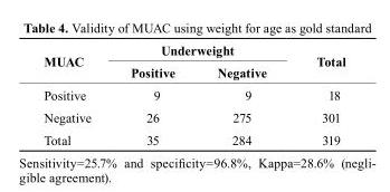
<table><thead><tr><td rowspan="2">MUAc</td><td colspan="2">Underweight</td><td rowspan="2">total</td></tr><tr><td>Positive</td><td>Negative</td></tr></thead><tbody><tr><td>Positive</td><td>9</td><td>9</td><td>18</td></tr><tr><td>Negative</td><td>26</td><td>275</td><td>301</td></tr><tr><td>Total</td><td>35</td><td>284</td><td>319</td></tr></tbody></table>